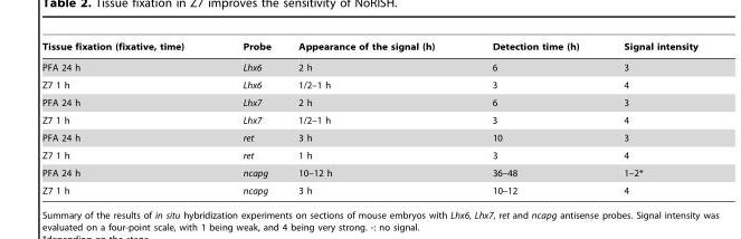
<table><thead><tr><td>Tissue fixation (fixative, time)</td><td>Probe</td><td>Appearance of the signal (h)</td><td>Detection time (h)</td><td>Signal intensity</td></tr></thead><tbody><tr><td>PFA 24 h</td><td>Lhx6</td><td>2 h</td><td>6</td><td>3</td></tr><tr><td>Z7 1 h</td><td>Lhx6</td><td>1/2–1 h</td><td>3</td><td>4</td></tr><tr><td>PFA 24 h</td><td>Lhx7</td><td>2 h</td><td>6</td><td>3</td></tr><tr><td>Z7 1 h</td><td>Lhx7</td><td>1/2–1 h</td><td>3</td><td>4</td></tr><tr><td>PFA 24 h</td><td>ret</td><td>3 h</td><td>10</td><td>3</td></tr><tr><td>Z7 1 h</td><td>ret</td><td>1 h</td><td>3</td><td>4</td></tr><tr><td>PFA 24 h</td><td>ncapg</td><td>10–12 h</td><td>36–48</td><td>1–2*</td></tr><tr><td>Z7 1 h</td><td>ncapg</td><td>3 h</td><td>10–12</td><td>4</td></tr></tbody></table>